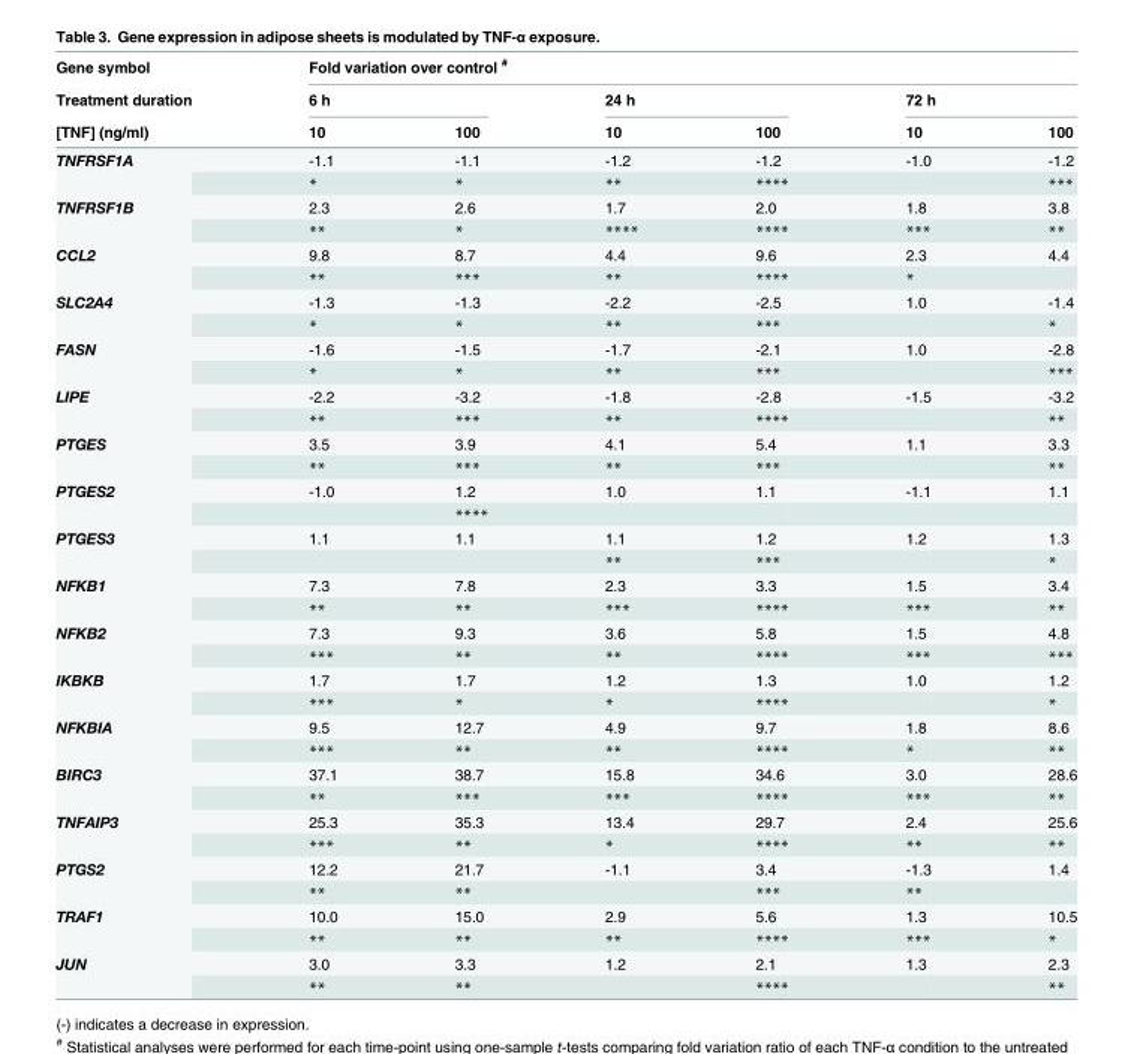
<table><thead><tr><td rowspan="3">Gene symbol Treatment duration [TNF] (ng/ml)</td><td colspan="6">Fold variation over control <sup>#</sup></td></tr><tr><td colspan="2">6 h</td><td colspan="2">24 h</td><td colspan="2">72 h</td></tr><tr><td>10</td><td>100</td><td>10</td><td>100</td><td>10</td><td>100</td></tr></thead><tbody><tr><td rowspan="2">TNFRSF1A</td><td>-1.1</td><td>-1.1</td><td>-1.2</td><td>-1.2</td><td>-1.0</td><td>-1.2</td></tr><tr><td>*</td><td>*</td><td>**</td><td>****</td><td></td><td>***</td></tr><tr><td rowspan="2">TNFRSF1B</td><td>2.3</td><td>2.6</td><td>1.7</td><td>2.0</td><td>1.8</td><td>3.8</td></tr><tr><td>**</td><td>*</td><td>****</td><td>****</td><td>***</td><td>**</td></tr><tr><td rowspan="2">CCL2</td><td>9.8</td><td>8.7</td><td>4.4</td><td>9.6</td><td>2.3</td><td>4.4</td></tr><tr><td>**</td><td>***</td><td>**</td><td>****</td><td>*</td><td></td></tr><tr><td rowspan="2">SLC2A4</td><td>-1.3</td><td>-1.3</td><td>-2.2</td><td>-2.5</td><td>1.0</td><td>-1.4</td></tr><tr><td>*</td><td>*</td><td>**</td><td>***</td><td></td><td>*</td></tr><tr><td rowspan="2">FASN</td><td>-1.6</td><td>-1.5</td><td>-1.7</td><td>-2.1</td><td>1.0</td><td>-2.8</td></tr><tr><td>*</td><td>*</td><td>**</td><td>***</td><td></td><td>***</td></tr><tr><td rowspan="2">LIPE</td><td>-2.2</td><td>-3.2</td><td>-1.8</td><td>-2.8</td><td>-1.5</td><td>-3.2</td></tr><tr><td>**</td><td>***</td><td>**</td><td>****</td><td></td><td>**</td></tr><tr><td rowspan="2">PTGES</td><td>3.5</td><td>3.9</td><td>4.1</td><td>5.4</td><td>1.1</td><td>3.3</td></tr><tr><td>**</td><td>***</td><td>**</td><td>***</td><td></td><td>**</td></tr><tr><td rowspan="2">PTGES2</td><td>-1.0</td><td>1.2</td><td>1.0</td><td>1.1</td><td>-1.1</td><td>1.1</td></tr><tr><td></td><td>****</td><td></td><td></td><td></td><td></td></tr><tr><td rowspan="2">PTGES3</td><td>1.1</td><td>1.1</td><td>1.1</td><td>1.2</td><td>1.2</td><td>1.3</td></tr><tr><td></td><td></td><td>**</td><td>***</td><td></td><td>*</td></tr><tr><td rowspan="2">NFKB1</td><td>7.3</td><td>7.8</td><td>2.3</td><td>3.3</td><td>1.5</td><td>3.4</td></tr><tr><td>**</td><td>**</td><td>***</td><td>****</td><td>***</td><td>**</td></tr><tr><td rowspan="2">NFKB2</td><td>7.3</td><td>9.3</td><td>3.6</td><td>5.8</td><td>1.5</td><td>4.8</td></tr><tr><td>***</td><td>**</td><td>**</td><td>****</td><td>***</td><td>***</td></tr><tr><td rowspan="2">IKBKB</td><td>1.7</td><td>1.7</td><td>1.2</td><td>1.3</td><td>1.0</td><td>1.2</td></tr><tr><td>***</td><td>*</td><td>*</td><td>****</td><td></td><td>*</td></tr><tr><td rowspan="2">NFKBIA</td><td>9.5</td><td>12.7</td><td>4.9</td><td>9.7</td><td>1.8</td><td>8.6</td></tr><tr><td>***</td><td>**</td><td>**</td><td>****</td><td>*</td><td>**</td></tr><tr><td rowspan="2">BIRC3</td><td>37.1</td><td>38.7</td><td>15.8</td><td>34.6</td><td>3.0</td><td>28.6</td></tr><tr><td>**</td><td>***</td><td>***</td><td>****</td><td>***</td><td>**</td></tr><tr><td rowspan="2">TNFAIP3</td><td>25.3</td><td>35.3</td><td>13.4</td><td>29.7</td><td>2.4</td><td>25.6</td></tr><tr><td>***</td><td>**</td><td>*</td><td>****</td><td>**</td><td>**</td></tr><tr><td rowspan="2">PTGS2</td><td>12.2</td><td>21.7</td><td>-1.1</td><td>3.4</td><td>-1.3</td><td>1.4</td></tr><tr><td>**</td><td>**</td><td></td><td>***</td><td>**</td><td></td></tr><tr><td rowspan="2">TRAF1</td><td>10.0</td><td>15.0</td><td>2.9</td><td>5.6</td><td>1.3</td><td>10.5</td></tr><tr><td>**</td><td>**</td><td>**</td><td>****</td><td>***</td><td>*</td></tr><tr><td rowspan="2">JUN</td><td>3.0</td><td>3.3</td><td>1.2</td><td>2.1</td><td>1.3</td><td>2.3</td></tr><tr><td>**</td><td>**</td><td></td><td>****</td><td></td><td>**</td></tr></tbody></table>